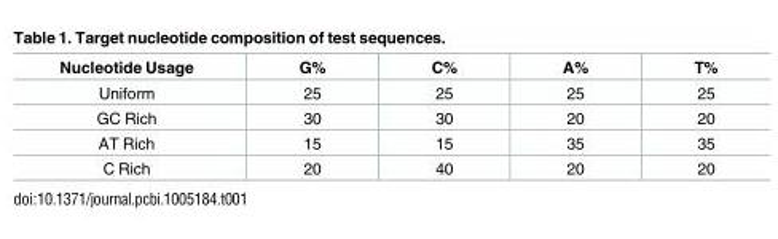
<table><thead><tr><td>Nucleotide Usage</td><td>G%</td><td>C%</td><td>A%</td><td>T%</td></tr></thead><tbody><tr><td>Uniform</td><td>25</td><td>25</td><td>25</td><td>25</td></tr><tr><td>GC Rich</td><td>30</td><td>30</td><td>20</td><td>20</td></tr><tr><td>AT Rich</td><td>15</td><td>15</td><td>35</td><td>35</td></tr><tr><td>C Rich</td><td>20</td><td>40</td><td>20</td><td>20</td></tr></tbody></table>